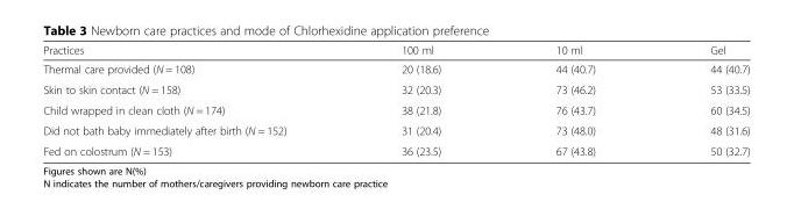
<table><thead><tr><td>Practices</td><td>100 ml</td><td>10 ml</td><td>Gel</td></tr></thead><tbody><tr><td>Thermal care provided (N = 108)</td><td>20 (18.6)</td><td>44 (40.7)</td><td>44 (40.7)</td></tr><tr><td>Skin to skin contact (N = 158)</td><td>32 (20.3)</td><td>73 (46.2)</td><td>53 (33.5)</td></tr><tr><td>Child wrapped in clean cloth (N = 174)</td><td>38 (21.8)</td><td>76 (43.7)</td><td>60 (34.5)</td></tr><tr><td>Did not bath baby immediately after birth (N = 152)</td><td>31 (20.4)</td><td>73 (48.0)</td><td>48 (31.6)</td></tr><tr><td>Fed on colostrum (N = 153)</td><td>36 (23.5)</td><td>67 (43.8)</td><td>50 (32.7)</td></tr></tbody></table>